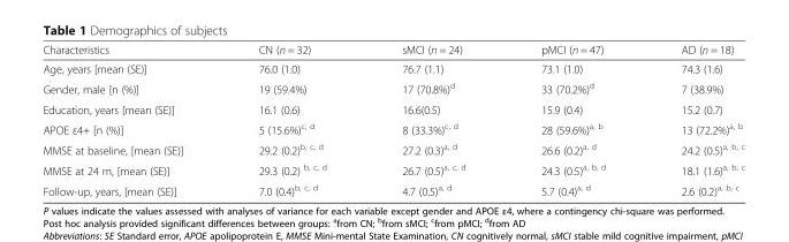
<table><thead><tr><td>Characteristics</td><td>CN (n = 32)</td><td>sMCI (n = 24)</td><td>pMCI (n = 47)</td><td>AD (n = 18)</td></tr></thead><tbody><tr><td>Age, years [mean (SE)]</td><td>76.0 (1.0)</td><td>76.7 (1.1)</td><td>73.1 (1.0)</td><td>74.3 (1.6)</td></tr><tr><td>Gender, male [n (%)]</td><td>19 (59.4%)</td><td>17 (70.8%)<sup>d</sup></td><td>33 (70.2%)<sup>d</sup></td><td>7 (38.9%)</td></tr><tr><td>Education, years [mean (SE)]</td><td>16.1 (0.6)</td><td>16.6(0.5)</td><td>15.9 (0.4)</td><td>15.2 (0.7)</td></tr><tr><td>APOE ε4+ [n (%)]</td><td>5 (15.6%)<sup>c, d</sup></td><td>8 (33.3%)<sup>c, d</sup></td><td>28 (59.6%)<sup>a, b</sup></td><td>13 (72.2%)<sup>a, b</sup></td></tr><tr><td>MMSE at baseline, [mean (SE)]</td><td>29.2 (0.2)<sup>b, c, d</sup></td><td>27.2 (0.3)<sup>a, d</sup></td><td>26.6 (0.2)<sup>a, d</sup></td><td>24.2 (0.5)<sup>a, b, c</sup></td></tr><tr><td>MMSE at 24 m, [mean (SE)]</td><td>29.3 (0.2) <sup>b, c, d</sup></td><td>26.7 (0.5)<sup>a, c, d</sup></td><td>24.3 (0.5)<sup>a, b, d</sup></td><td>18.1 (1.6)<sup>a, b, c</sup></td></tr><tr><td>Follow-up, years, [mean (SE)]</td><td>7.0 (0.4)<sup>b, c, d</sup></td><td>4.7 (0.5)<sup>a, d</sup></td><td>5.7 (0.4)<sup>a, d</sup></td><td>2.6 (0.2)<sup>a, b, c</sup></td></tr></tbody></table>